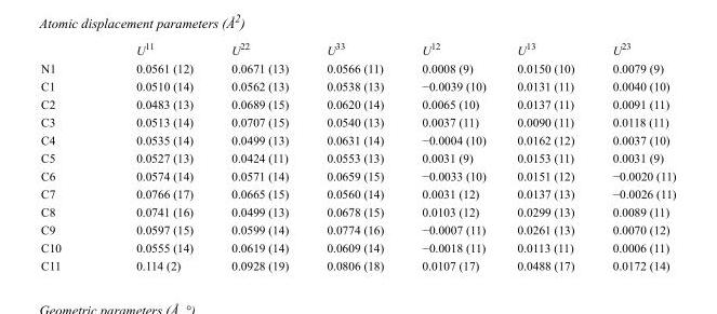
<table><thead><tr><td></td><td>U<sup>11</sup></td><td>U<sup>22</sup></td><td>U<sup>33</sup></td><td>U<sup>12</sup></td><td>U<sup>13</sup></td><td>U<sup>23</sup></td></tr></thead><tbody><tr><td>N1</td><td>0.0561 (12)</td><td>0.0671 (13)</td><td>0.0566 (11)</td><td>0.0008 (9)</td><td>0.0150 (10)</td><td>0.0079 (9)</td></tr><tr><td>C1</td><td>0.0510 (14)</td><td>0.0562 (13)</td><td>0.0538 (13)</td><td>−0.0039 (10)</td><td>0.0131 (11)</td><td>0.0040 (10)</td></tr><tr><td>C2</td><td>0.0483 (13)</td><td>0.0689 (15)</td><td>0.0620 (14)</td><td>0.0065 (10)</td><td>0.0137 (11)</td><td>0.0091 (11)</td></tr><tr><td>C3</td><td>0.0513 (14)</td><td>0.0707 (15)</td><td>0.0540 (13)</td><td>0.0037 (11)</td><td>0.0090 (11)</td><td>0.0118 (11)</td></tr><tr><td>C4</td><td>0.0535 (14)</td><td>0.0499 (13)</td><td>0.0631 (14)</td><td>−0.0004 (10)</td><td>0.0162 (12)</td><td>0.0037 (10)</td></tr><tr><td>C5</td><td>0.0527 (13)</td><td>0.0424 (11)</td><td>0.0553 (13)</td><td>0.0031 (9)</td><td>0.0153 (11)</td><td>0.0031 (9)</td></tr><tr><td>C6</td><td>0.0574 (14)</td><td>0.0571 (14)</td><td>0.0659 (15)</td><td>−0.0033 (10)</td><td>0.0151 (12)</td><td>−0.0020 (11)</td></tr><tr><td>C7</td><td>0.0766 (17)</td><td>0.0665 (15)</td><td>0.0560 (14)</td><td>0.0031 (12)</td><td>0.0137 (13)</td><td>−0.0026 (11)</td></tr><tr><td>C8</td><td>0.0741 (16)</td><td>0.0499 (13)</td><td>0.0678 (15)</td><td>0.0103 (12)</td><td>0.0299 (13)</td><td>0.0089 (11)</td></tr><tr><td>C9</td><td>0.0597 (15)</td><td>0.0599 (14)</td><td>0.0774 (16)</td><td>−0.0007 (11)</td><td>0.0261 (13)</td><td>0.0070 (12)</td></tr><tr><td>C10</td><td>0.0555 (14)</td><td>0.0619 (14)</td><td>0.0609 (14)</td><td>−0.0018 (11)</td><td>0.0113 (11)</td><td>0.0006 (11)</td></tr><tr><td>C11</td><td>0.114 (2)</td><td>0.0928 (19)</td><td>0.0806 (18)</td><td>0.0107 (17)</td><td>0.0488 (17)</td><td>0.0172 (14)</td></tr></tbody></table>